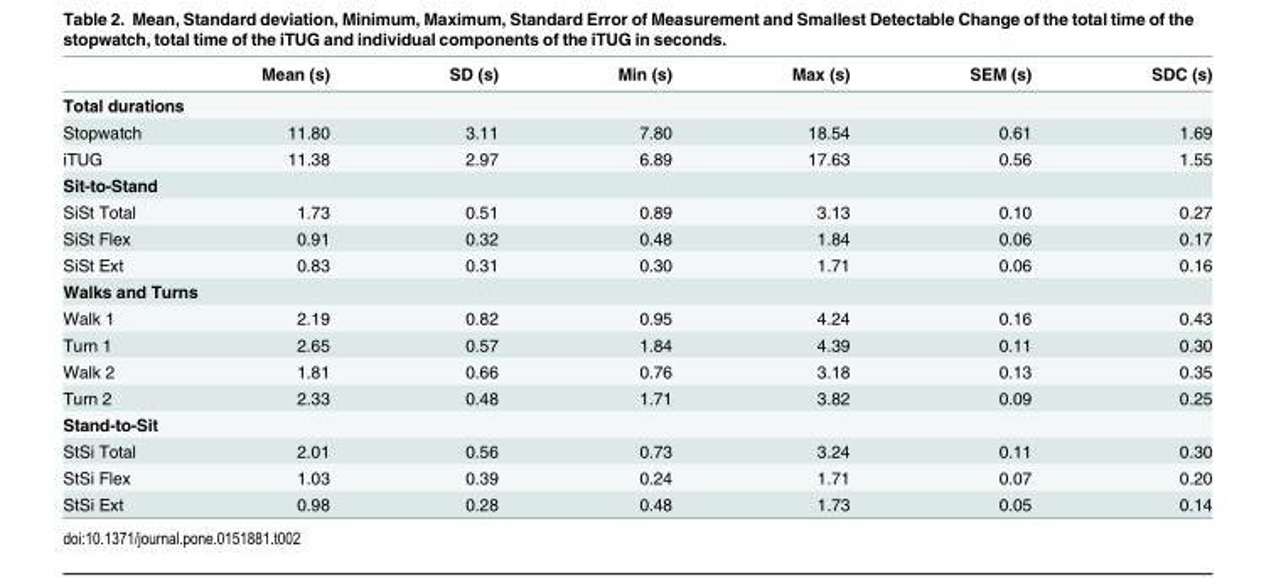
<table><thead><tr><td></td><td>Mean (s)</td><td>SD (s)</td><td>Min (s)</td><td>Max (s)</td><td>SEM (s)</td><td>SDC (s)</td></tr></thead><tbody><tr><td colspan="7">Total durations</td></tr><tr><td>Stopwatch</td><td>11.80</td><td>3.11</td><td>7.80</td><td>18.54</td><td>0.61</td><td>1.69</td></tr><tr><td>iTUG</td><td>11.38</td><td>2.97</td><td>6.89</td><td>17.63</td><td>0.56</td><td>1.55</td></tr><tr><td colspan="7">Sit-to-Stand</td></tr><tr><td>SiSt Total</td><td>1.73</td><td>0.51</td><td>0.89</td><td>3.13</td><td>0.10</td><td>0.27</td></tr><tr><td>SiSt Flex</td><td>0.91</td><td>0.32</td><td>0.48</td><td>1.84</td><td>0.06</td><td>0.17</td></tr><tr><td>SiSt Ext</td><td>0.83</td><td>0.31</td><td>0.30</td><td>1.71</td><td>0.06</td><td>0.16</td></tr><tr><td colspan="7">Walks and Turns</td></tr><tr><td>Walk 1</td><td>2.19</td><td>0.82</td><td>0.95</td><td>4.24</td><td>0.16</td><td>0.43</td></tr><tr><td>Turn 1</td><td>2.65</td><td>0.57</td><td>1.84</td><td>4.39</td><td>0.11</td><td>0.30</td></tr><tr><td>Walk 2</td><td>1.81</td><td>0.66</td><td>0.76</td><td>3.18</td><td>0.13</td><td>0.35</td></tr><tr><td>Turn 2</td><td>2.33</td><td>0.48</td><td>1.71</td><td>3.82</td><td>0.09</td><td>0.25</td></tr><tr><td colspan="7">Stand-to-Sit</td></tr><tr><td>StSi Total</td><td>2.01</td><td>0.56</td><td>0.73</td><td>3.24</td><td>0.11</td><td>0.30</td></tr><tr><td>StSi Flex</td><td>1.03</td><td>0.39</td><td>0.24</td><td>1.71</td><td>0.07</td><td>0.20</td></tr><tr><td>StSi Ext</td><td>0.98</td><td>0.28</td><td>0.48</td><td>1.73</td><td>0.05</td><td>0.14</td></tr></tbody></table>